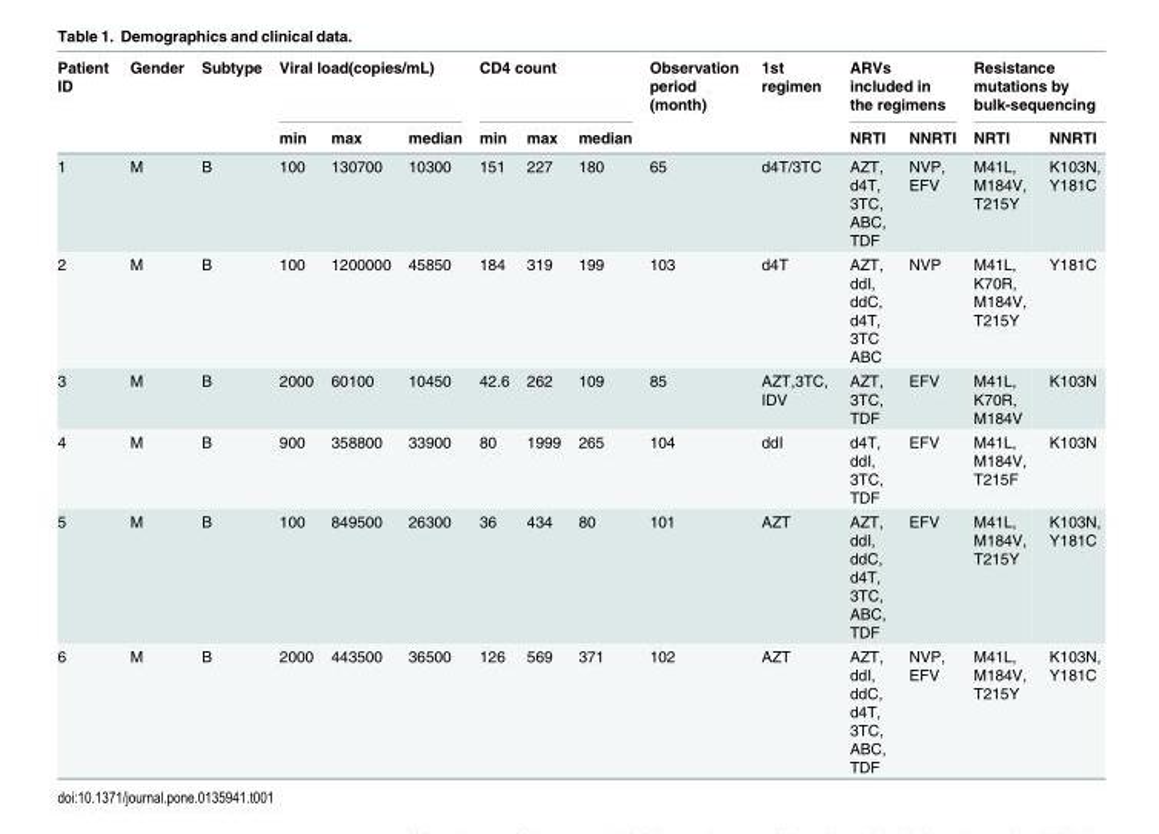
<table><thead><tr><td rowspan="2">Patient ID</td><td rowspan="2">Gender</td><td rowspan="2">Subtype</td><td colspan="3">Viral load(copies/mL)</td><td colspan="3">CD4 count</td><td rowspan="2">Observation period (month)</td><td rowspan="2">1st regimen</td><td colspan="2">ARVs included in the regimens</td><td colspan="2">Resistance mutations by bulk-sequencing</td></tr><tr><td>min</td><td>max</td><td>median</td><td>min</td><td>max</td><td>median</td><td>NRTI</td><td>NNRTI</td><td>NRTI</td><td>NNRTI</td></tr></thead><tbody><tr><td>1</td><td>M</td><td>B</td><td>100</td><td>130700</td><td>10300</td><td>151</td><td>227</td><td>180</td><td>65</td><td>d4T/3TC</td><td>AZT, d4T, 3TC, ABC, TDF</td><td>NVP, EFV</td><td>M41L, M184V, T215Y</td><td>K103N, Y181C</td></tr><tr><td>2</td><td>M</td><td>B</td><td>100</td><td>1200000</td><td>45850</td><td>184</td><td>319</td><td>199</td><td>103</td><td>d4T</td><td>AZT, ddI, ddC, d4T, 3TC ABC</td><td>NVP</td><td>M41L, K70R, M184V, T215Y</td><td>Y181C</td></tr><tr><td>3</td><td>M</td><td>B</td><td>2000</td><td>60100</td><td>10450</td><td>42.6</td><td>262</td><td>109</td><td>85</td><td>AZT,3TC, IDV</td><td>AZT, 3TC, TDF</td><td>EFV</td><td>M41L, K70R, M184V</td><td>K103N</td></tr><tr><td>4</td><td>M</td><td>B</td><td>900</td><td>358800</td><td>33900</td><td>80</td><td>1999</td><td>265</td><td>104</td><td>ddI</td><td>d4T, ddI, 3TC, TDF</td><td>EFV</td><td>M41L, M184V, T215F</td><td>K103N</td></tr><tr><td>5</td><td>M</td><td>B</td><td>100</td><td>849500</td><td>26300</td><td>36</td><td>434</td><td>80</td><td>101</td><td>AZT</td><td>AZT, ddI, ddC, d4T, 3TC, ABC, TDF</td><td>EFV</td><td>M41L, M184V, T215Y</td><td>K103N, Y181C</td></tr><tr><td>6</td><td>M</td><td>B</td><td>2000</td><td>443500</td><td>36500</td><td>126</td><td>569</td><td>371</td><td>102</td><td>AZT</td><td>AZT, ddI, ddC, d4T, 3TC, ABC, TDF</td><td>NVP, EFV</td><td>M41L, M184V, T215Y</td><td>K103N, Y181C</td></tr></tbody></table>